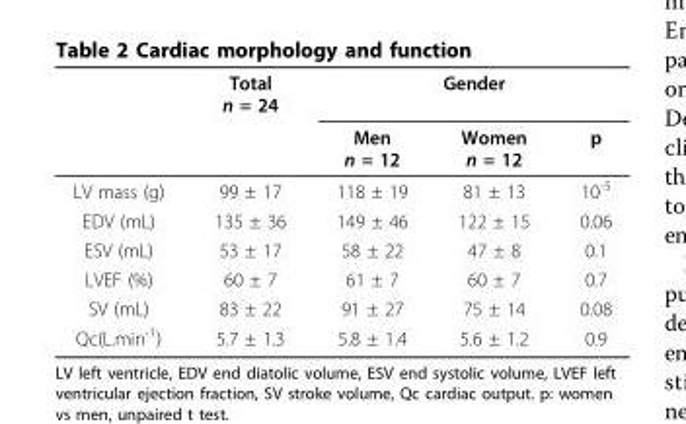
<table><thead><tr><td rowspan="2"></td><td rowspan="2">Total n = 24</td><td colspan="3">Gender</td></tr><tr><td>Men n = 12</td><td>Women n = 12</td><td>p</td></tr></thead><tbody><tr><td>LV mass (g)</td><td>99 ± 17</td><td>118 ± 19</td><td>81 ± 13</td><td>10<sup>-5</sup></td></tr><tr><td>EDV (mL)</td><td>135 ± 36</td><td>149 ± 46</td><td>122 ± 15</td><td>0.06</td></tr><tr><td>ESV (mL)</td><td>53 ± 17</td><td>58 ± 22</td><td>47 ± 8</td><td>0.1</td></tr><tr><td>LVEF (%)</td><td>60 ± 7</td><td>61 ± 7</td><td>60 ± 7</td><td>0.7</td></tr><tr><td>SV (mL)</td><td>83 ± 22</td><td>91 ± 27</td><td>75 ± 14</td><td>0.08</td></tr><tr><td>Qc(L.min<sup>-1</sup>)</td><td>5.7 ± 1.3</td><td>5.8 ± 1.4</td><td>5.6 ± 1.2</td><td>0.9</td></tr></tbody></table>